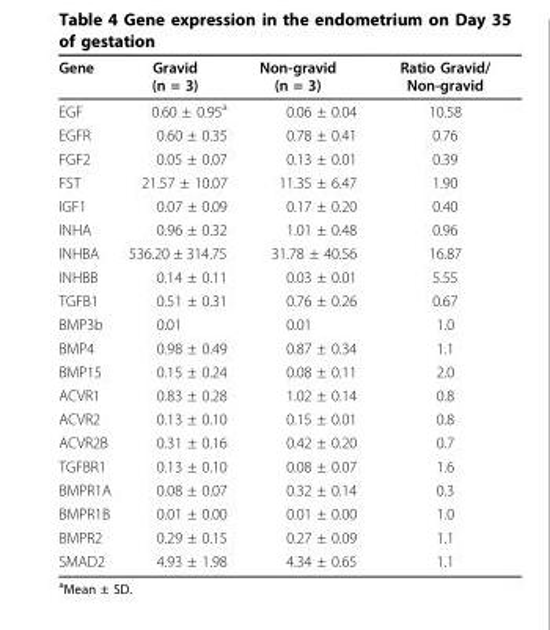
<table><thead><tr><td>Gene</td><td>Gravid (n = 3)</td><td>Non-gravid (n = 3)</td><td>Ratio Gravid/ Non-gravid</td></tr></thead><tbody><tr><td>EGF</td><td>0.60 ± 0.95<sup>a</sup></td><td>0.06 ± 0.04</td><td>10.58</td></tr><tr><td>EGFR</td><td>0.60 ± 0.35</td><td>0.78 ± 0.41</td><td>0.76</td></tr><tr><td>FGF2</td><td>0.05 ± 0.07</td><td>0.13 ± 0.01</td><td>0.39</td></tr><tr><td>FST</td><td>21.57 ± 10.07</td><td>11.35 ± 6.47</td><td>1.90</td></tr><tr><td>IGF1</td><td>0.07 ± 0.09</td><td>0.17 ± 0.20</td><td>0.40</td></tr><tr><td>INHA</td><td>0.96 ± 0.32</td><td>1.01 ± 0.48</td><td>0.96</td></tr><tr><td>INHBA</td><td>536.20 ± 314.75</td><td>31.78 ± 40.56</td><td>16.87</td></tr><tr><td>INHBB</td><td>0.14 ± 0.11</td><td>0.03 ± 0.01</td><td>5.55</td></tr><tr><td>TGFB1</td><td>0.51 ± 0.31</td><td>0.76 ± 0.26</td><td>0.67</td></tr><tr><td>BMP3b</td><td>0.01</td><td>0.01</td><td>1.0</td></tr><tr><td>BMP4</td><td>0.98 ± 0.49</td><td>0.87 ± 0.34</td><td>1.1</td></tr><tr><td>BMP15</td><td>0.15 ± 0.24</td><td>0.08 ± 0.11</td><td>2.0</td></tr><tr><td>ACVR1</td><td>0.83 ± 0.28</td><td>1.02 ± 0.14</td><td>0.8</td></tr><tr><td>ACVR2</td><td>0.13 ± 0.10</td><td>0.15 ± 0.01</td><td>0.8</td></tr><tr><td>ACVR2B</td><td>0.31 ± 0.16</td><td>0.42 ± 0.20</td><td>0.7</td></tr><tr><td>TGFBR1</td><td>0.13 ± 0.10</td><td>0.08 ± 0.07</td><td>1.6</td></tr><tr><td>BMPR1A</td><td>0.08 ± 0.07</td><td>0.32 ± 0.14</td><td>0.3</td></tr><tr><td>BMPR1B</td><td>0.01 ± 0.00</td><td>0.01 ± 0.00</td><td>1.0</td></tr><tr><td>BMPR2</td><td>0.29 ± 0.15</td><td>0.27 ± 0.09</td><td>1.1</td></tr><tr><td>SMAD2</td><td>4.93 ± 1.98</td><td>4.34 ± 0.65</td><td>1.1</td></tr></tbody></table>